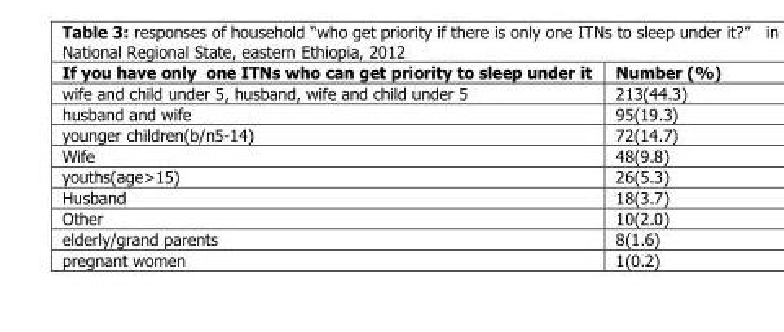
<table><thead><tr><td>If you have only one ITNs who can get priority to sleep under it</td><td>Number (%)</td></tr></thead><tbody><tr><td>wife and child under 5, husband, wife and child under 5</td><td>213(44.3)</td></tr><tr><td>husband and wife</td><td>95(19.3)</td></tr><tr><td>younger children(b/n5-14)</td><td>72(14.7)</td></tr><tr><td>Wife</td><td>48(9.8)</td></tr><tr><td>youths(age&gt;15)</td><td>26(5.3)</td></tr><tr><td>Husband</td><td>18(3.7)</td></tr><tr><td>Other</td><td>10(2.0)</td></tr><tr><td>elderly/grand parents</td><td>8(1.6)</td></tr><tr><td>pregnant women</td><td>1(0.2)</td></tr></tbody></table>